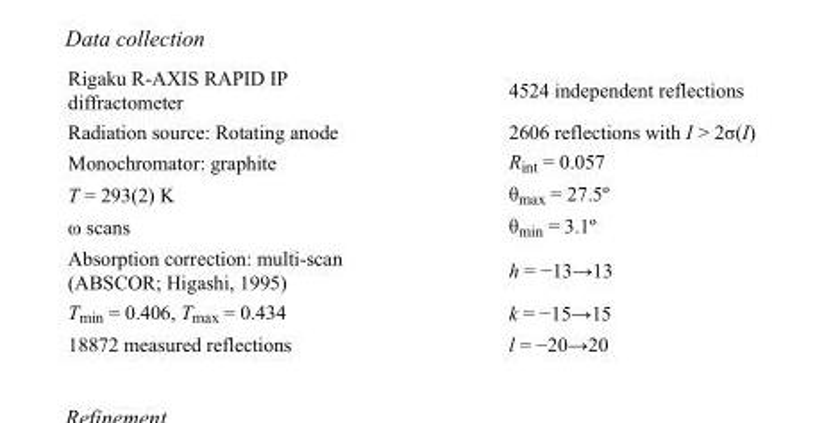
<table><tbody><tr><td>Rigaku R-AXIS RAPID IP diffractometer</td><td>4524 independent reflections</td></tr><tr><td>Radiation source: Rotating anode</td><td>2606 reflections with I &gt; 2σ(I)</td></tr><tr><td>Monochromator: graphite</td><td>R<sub>int</sub> = 0.057</td></tr><tr><td>T = 293(2) K</td><td>θ<sub>max</sub> = 27.5º</td></tr><tr><td>ω scans</td><td>θ<sub>min</sub> = 3.1º</td></tr><tr><td>Absorption correction: multi-scan (ABSCOR; Higashi, 1995)</td><td>h = −13→13</td></tr><tr><td>T<sub>min</sub> = 0.406, T<sub>max</sub> = 0.434</td><td>k = −15→15</td></tr><tr><td>18872 measured reflections</td><td>l = −20→20</td></tr></tbody></table>